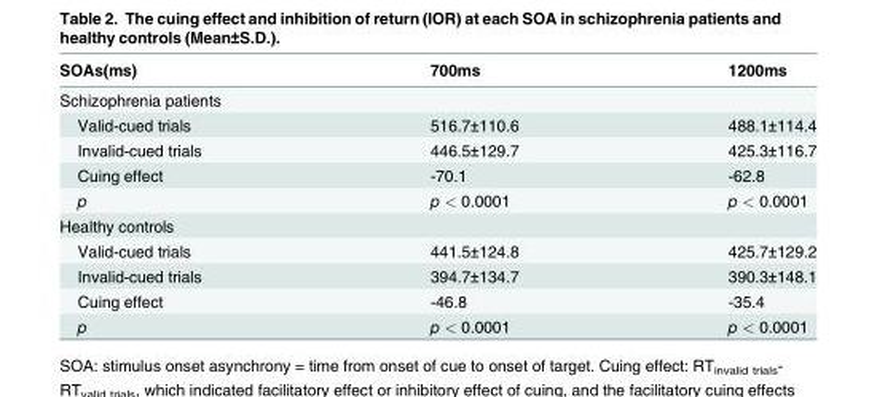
<table><thead><tr><td>SOAs(ms)</td><td>700ms</td><td>1200ms</td></tr></thead><tbody><tr><td colspan="3">Schizophrenia patients</td></tr><tr><td>Valid-cued trials</td><td>516.7±110.6</td><td>488.1±114.4</td></tr><tr><td>Invalid-cued trials</td><td>446.5±129.7</td><td>425.3±116.7</td></tr><tr><td>Cuing effect</td><td>-70.1</td><td>-62.8</td></tr><tr><td>p</td><td>p &lt; 0.0001</td><td>p &lt; 0.0001</td></tr><tr><td colspan="3">Healthy controls</td></tr><tr><td>Valid-cued trials</td><td>441.5±124.8</td><td>425.7±129.2</td></tr><tr><td>Invalid-cued trials</td><td>394.7±134.7</td><td>390.3±148.1</td></tr><tr><td>Cuing effect</td><td>-46.8</td><td>-35.4</td></tr><tr><td>p</td><td>p &lt; 0.0001</td><td>p &lt; 0.0001</td></tr></tbody></table>